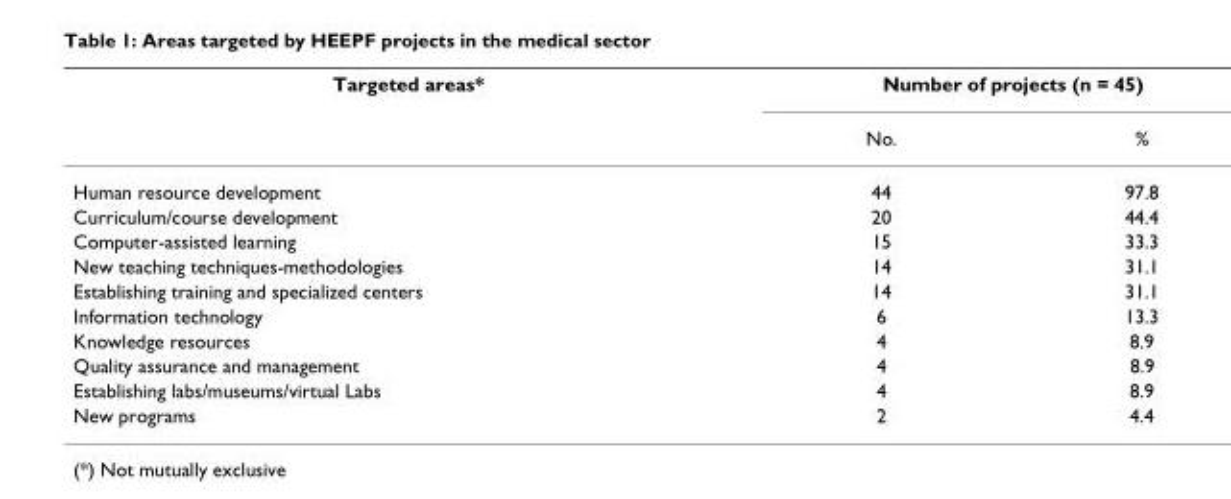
<table><thead><tr><td rowspan="2">Targeted areas*</td><td colspan="2">Number of projects (n = 45)</td></tr><tr><td>No.</td><td>%</td></tr></thead><tbody><tr><td>Human resource development</td><td>44</td><td>97.8</td></tr><tr><td>Curriculum/course development</td><td>20</td><td>44.4</td></tr><tr><td>Computer-assisted learning</td><td>15</td><td>33.3</td></tr><tr><td>New teaching techniques-methodologies</td><td>14</td><td>31.1</td></tr><tr><td>Establishing training and specialized centers</td><td>14</td><td>31.1</td></tr><tr><td>Information technology</td><td>6</td><td>13.3</td></tr><tr><td>Knowledge resources</td><td>4</td><td>8.9</td></tr><tr><td>Quality assurance and management</td><td>4</td><td>8.9</td></tr><tr><td>Establishing labs/museums/virtual Labs</td><td>4</td><td>8.9</td></tr><tr><td>New programs</td><td>2</td><td>4.4</td></tr></tbody></table>